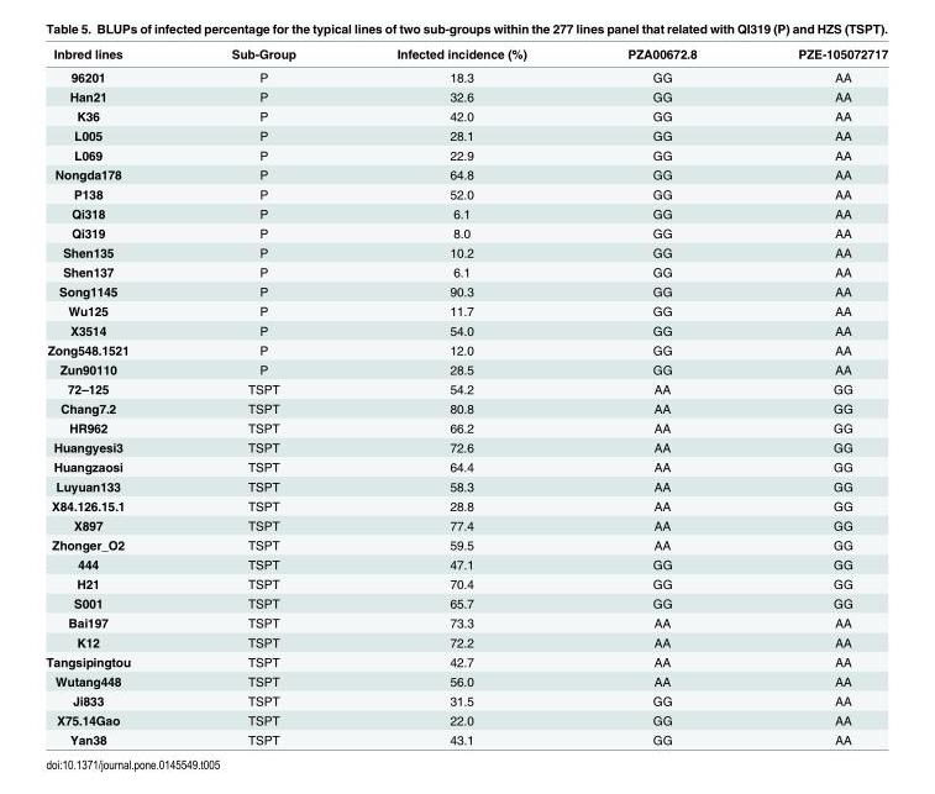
<table><thead><tr><td>Inbred lines</td><td>Sub-Group</td><td>Infected incidence (%)</td><td>PZA00672.8</td><td>PZE-105072717</td></tr></thead><tbody><tr><td>96201</td><td>P</td><td>18.3</td><td>GG</td><td>AA</td></tr><tr><td>Han21</td><td>P</td><td>32.6</td><td>GG</td><td>AA</td></tr><tr><td>K36</td><td>P</td><td>42.0</td><td>GG</td><td>AA</td></tr><tr><td>L005</td><td>P</td><td>28.1</td><td>GG</td><td>AA</td></tr><tr><td>L069</td><td>P</td><td>22.9</td><td>GG</td><td>AA</td></tr><tr><td>Nongda178</td><td>P</td><td>64.8</td><td>GG</td><td>AA</td></tr><tr><td>P138</td><td>P</td><td>52.0</td><td>GG</td><td>AA</td></tr><tr><td>Qi318</td><td>P</td><td>6.1</td><td>GG</td><td>AA</td></tr><tr><td>Qi319</td><td>P</td><td>8.0</td><td>GG</td><td>AA</td></tr><tr><td>Shen135</td><td>P</td><td>10.2</td><td>GG</td><td>AA</td></tr><tr><td>Shen137</td><td>P</td><td>6.1</td><td>GG</td><td>AA</td></tr><tr><td>Song1145</td><td>P</td><td>90.3</td><td>GG</td><td>AA</td></tr><tr><td>Wu125</td><td>P</td><td>11.7</td><td>GG</td><td>AA</td></tr><tr><td>X3514</td><td>P</td><td>54.0</td><td>GG</td><td>AA</td></tr><tr><td>Zong548.1521</td><td>P</td><td>12.0</td><td>GG</td><td>AA</td></tr><tr><td>Zun90110</td><td>P</td><td>28.5</td><td>GG</td><td>AA</td></tr><tr><td>72–125</td><td>TSPT</td><td>54.2</td><td>AA</td><td>GG</td></tr><tr><td>Chang7.2</td><td>TSPT</td><td>80.8</td><td>AA</td><td>GG</td></tr><tr><td>HR962</td><td>TSPT</td><td>66.2</td><td>AA</td><td>GG</td></tr><tr><td>Huangyesi3</td><td>TSPT</td><td>72.6</td><td>AA</td><td>GG</td></tr><tr><td>Huangzaosi</td><td>TSPT</td><td>64.4</td><td>AA</td><td>GG</td></tr><tr><td>Luyuan133</td><td>TSPT</td><td>58.3</td><td>AA</td><td>GG</td></tr><tr><td>X84.126.15.1</td><td>TSPT</td><td>28.8</td><td>AA</td><td>GG</td></tr><tr><td>X897</td><td>TSPT</td><td>77.4</td><td>AA</td><td>GG</td></tr><tr><td>Zhonger_O2</td><td>TSPT</td><td>59.5</td><td>AA</td><td>GG</td></tr><tr><td>444</td><td>TSPT</td><td>47.1</td><td>GG</td><td>GG</td></tr><tr><td>H21</td><td>TSPT</td><td>70.4</td><td>GG</td><td>GG</td></tr><tr><td>S001</td><td>TSPT</td><td>65.7</td><td>GG</td><td>GG</td></tr><tr><td>Bai197</td><td>TSPT</td><td>73.3</td><td>AA</td><td>AA</td></tr><tr><td>K12</td><td>TSPT</td><td>72.2</td><td>AA</td><td>AA</td></tr><tr><td>Tangsipingtou</td><td>TSPT</td><td>42.7</td><td>AA</td><td>AA</td></tr><tr><td>Wutang448</td><td>TSPT</td><td>56.0</td><td>AA</td><td>AA</td></tr><tr><td>Ji833</td><td>TSPT</td><td>31.5</td><td>GG</td><td>AA</td></tr><tr><td>X75.14Gao</td><td>TSPT</td><td>22.0</td><td>GG</td><td>AA</td></tr><tr><td>Yan38</td><td>TSPT</td><td>43.1</td><td>GG</td><td>AA</td></tr></tbody></table>